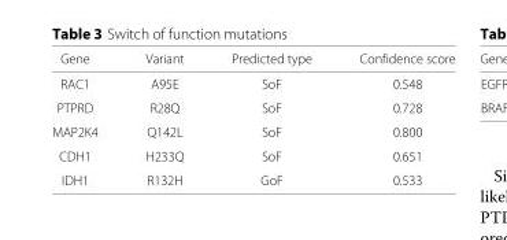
<table><thead><tr><td>Gene</td><td>Variant</td><td>Predicted type</td><td>Confidence score</td></tr></thead><tbody><tr><td>RAC1</td><td>A95E</td><td>SoF</td><td>0.548</td></tr><tr><td>PTPRD</td><td>R28Q</td><td>SoF</td><td>0.728</td></tr><tr><td>MAP2K4</td><td>Q142L</td><td>SoF</td><td>0.800</td></tr><tr><td>CDH1</td><td>H233Q</td><td>SoF</td><td>0.651</td></tr><tr><td>IDH1</td><td>R132H</td><td>GoF</td><td>0.533</td></tr></tbody></table>